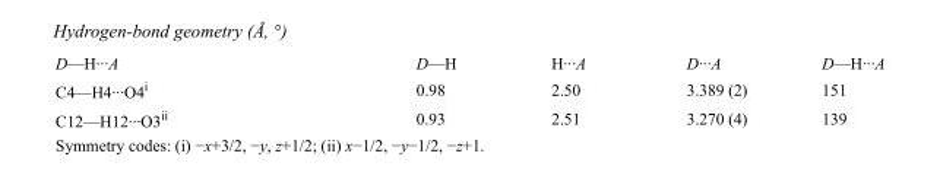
<table><tbody><tr><td>D—H···A</td><td>D—H</td><td>H···A</td><td>D···A</td><td>D—H···A</td></tr><tr><td>C4—H4···O4<sup>i</sup></td><td>0.98</td><td>2.50</td><td>3.389 (2)</td><td>151</td></tr><tr><td>C12—H12···O3<sup>ii</sup></td><td>0.93</td><td>2.51</td><td>3.270 (4)</td><td>139</td></tr></tbody></table>